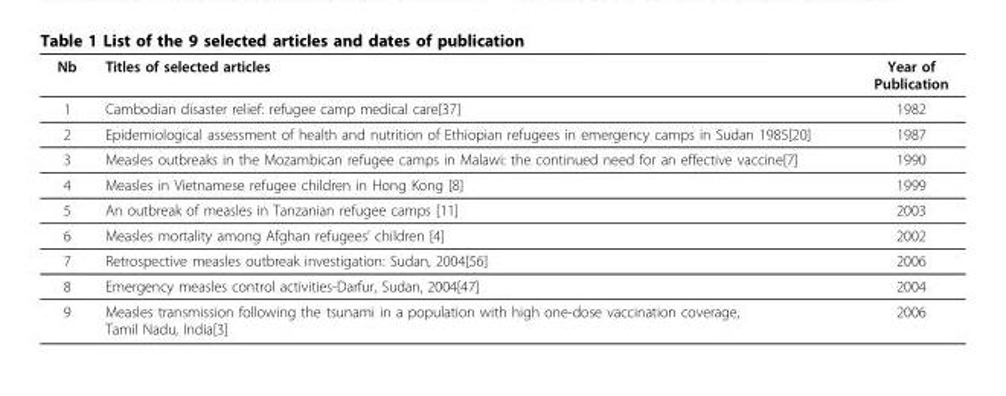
<table><thead><tr><td>Nb</td><td>Titles of selected articles</td><td>Year of Publication</td></tr></thead><tbody><tr><td>1</td><td>Cambodian disaster relief: refugee camp medical care[37]</td><td>1982</td></tr><tr><td>2</td><td>Epidemiological assessment of health and nutrition of Ethiopian refugees in emergency camps in Sudan 1985[20]</td><td>1987</td></tr><tr><td>3</td><td>Measles outbreaks in the Mozambican refugee camps in Malawi: the continued need for an effective vaccine[7]</td><td>1990</td></tr><tr><td>4</td><td>Measles in Vietnamese refugee children in Hong Kong [8]</td><td>1999</td></tr><tr><td>5</td><td>An outbreak of measles in Tanzanian refugee camps [11]</td><td>2003</td></tr><tr><td>6</td><td>Measles mortality among Afghan refugees’ children [4]</td><td>2002</td></tr><tr><td>7</td><td>Retrospective measles outbreak investigation: Sudan, 2004[56]</td><td>2006</td></tr><tr><td>8</td><td>Emergency measles control activities-Darfur, Sudan, 2004[47]</td><td>2004</td></tr><tr><td>9</td><td>Measles transmission following the tsunami in a population with high one-dose vaccination coverage, Tamil Nadu, India[3]</td><td>2006</td></tr></tbody></table>